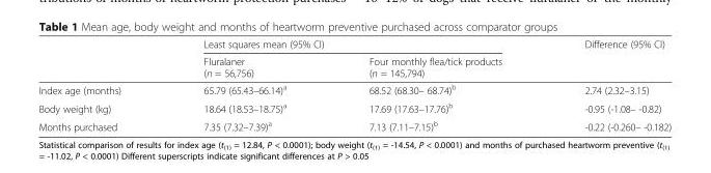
<table><thead><tr><td rowspan="2"></td><td colspan="2">Least squares mean (95% CI)</td><td rowspan="2">Difference (95% CI)</td></tr><tr><td>Fluralaner (n = 56,756)</td><td>Four monthly flea/tick products (n = 145,794)</td></tr></thead><tbody><tr><td>Index age (months)</td><td>65.79 (65.43–66.14)<sup>a</sup></td><td>68.52 (68.30– 68.74)<sup>b</sup></td><td>2.74 (2.32–3.15)</td></tr><tr><td>Body weight (kg)</td><td>18.64 (18.53–18.75)<sup>a</sup></td><td>17.69 (17.63–17.76)<sup>b</sup></td><td>-0.95 (-1.08– -0.82)</td></tr><tr><td>Months purchased</td><td>7.35 (7.32–7.39)<sup>a</sup></td><td>7.13 (7.11–7.15)<sup>b</sup></td><td>-0.22 (-0.260– -0.182)</td></tr></tbody></table>